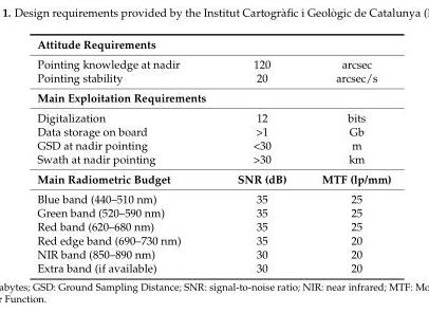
<table><tbody><tr><td colspan="3">Attitude Requirements</td></tr><tr><td>Pointing knowledge at nadir</td><td>120</td><td>arcsec</td></tr><tr><td>Pointing stability</td><td>20</td><td>arcsec/s</td></tr><tr><td colspan="3">Main Exploitation Requirements</td></tr><tr><td>Digitalization</td><td>12</td><td>bits</td></tr><tr><td>Data storage on board</td><td>&gt;1</td><td>Gb</td></tr><tr><td>GSD at nadir pointing</td><td>&lt;30</td><td>m</td></tr><tr><td>Swath at nadir pointing</td><td>&gt;30</td><td>km</td></tr><tr><td>Main Radiometric Budget</td><td>SNR (dB)</td><td>MTF (lp/mm)</td></tr><tr><td>Blue band (440–510 nm)</td><td>35</td><td>25</td></tr><tr><td>Green band (520–590 nm)</td><td>35</td><td>25</td></tr><tr><td>Red band (620–680 nm)</td><td>35</td><td>25</td></tr><tr><td>Red edge band (690–730 nm)</td><td>35</td><td>20</td></tr><tr><td>NIR band (850–890 nm)</td><td>30</td><td>20</td></tr><tr><td>Extra band (if available)</td><td>30</td><td>20</td></tr></tbody></table>